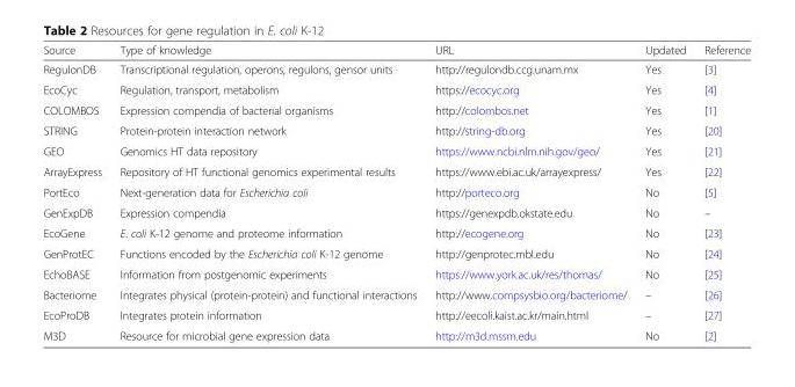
<table><thead><tr><td>Source</td><td>Type of knowledge</td><td>URL</td><td>Updated</td><td>Reference</td></tr></thead><tbody><tr><td>RegulonDB</td><td>Transcriptional regulation, operons, regulons, gensor units</td><td>http://regulondb.ccg.unam.mx</td><td>Yes</td><td>[3]</td></tr><tr><td>EcoCyc</td><td>Regulation, transport, metabolism</td><td>https://ecocyc.org</td><td>Yes</td><td>[4]</td></tr><tr><td>COLOMBOS</td><td>Expression compendia of bacterial organisms</td><td>http://colombos.net</td><td>Yes</td><td>[1]</td></tr><tr><td>STRING</td><td>Protein-protein interaction network</td><td>http://string-db.org</td><td>Yes</td><td>[20]</td></tr><tr><td>GEO</td><td>Genomics HT data repository</td><td>https://www.ncbi.nlm.nih.gov/geo/</td><td>Yes</td><td>[21]</td></tr><tr><td>ArrayExpress</td><td>Repository of HT functional genomics experimental results</td><td>https://www.ebi.ac.uk/arrayexpress/</td><td>Yes</td><td>[22]</td></tr><tr><td>PortEco</td><td>Next-generation data for Escherichia coli</td><td>http://porteco.org</td><td>No</td><td>[5]</td></tr><tr><td>GenExpDB</td><td>Expression compendia</td><td>https://genexpdb.okstate.edu</td><td>No</td><td>–</td></tr><tr><td>EcoGene</td><td>E. coli K-12 genome and proteome information</td><td>http://ecogene.org</td><td>No</td><td>[23]</td></tr><tr><td>GenProtEC</td><td>Functions encoded by the Escherichia coli K-12 genome</td><td>http://genprotec.mbl.edu</td><td>No</td><td>[24]</td></tr><tr><td>EchoBASE</td><td>Information from postgenomic experiments</td><td>https://www.york.ac.uk/res/thomas/</td><td>No</td><td>[25]</td></tr><tr><td>Bacteriome</td><td>Integrates physical (protein-protein) and functional interactions</td><td>http://www.compsysbio.org/bacteriome/</td><td>–</td><td>[26]</td></tr><tr><td>EcoProDB</td><td>Integrates protein information</td><td>http://eecoli.kaist.ac.kr/main.html</td><td>–</td><td>[27]</td></tr><tr><td>M3D</td><td>Resource for microbial gene expression data</td><td>http://m3d.mssm.edu</td><td>No</td><td>[2]</td></tr></tbody></table>